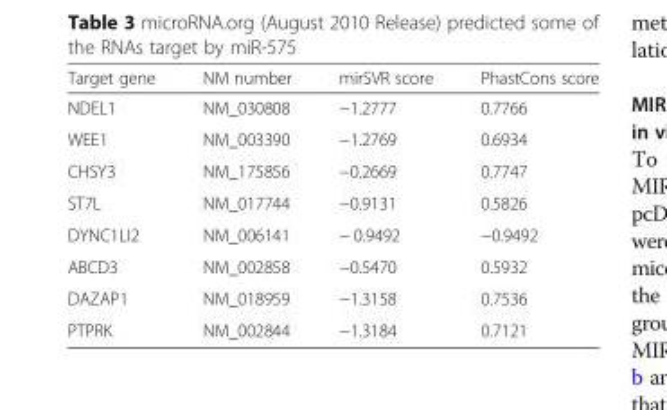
<table><thead><tr><td>Target gene</td><td>NM number</td><td>mirSVR score</td><td>PhastCons score</td></tr></thead><tbody><tr><td>NDEL1</td><td>NM_030808</td><td>−1.2777</td><td>0.7766</td></tr><tr><td>WEE1</td><td>NM_003390</td><td>−1.2769</td><td>0.6934</td></tr><tr><td>CHSY3</td><td>NM_175856</td><td>−0.2669</td><td>0.7747</td></tr><tr><td>ST7L</td><td>NM_017744</td><td>−0.9131</td><td>0.5826</td></tr><tr><td>DYNC1LI2</td><td>NM_006141</td><td>− 0.9492</td><td>−0.9492</td></tr><tr><td>ABCD3</td><td>NM_002858</td><td>−0.5470</td><td>0.5932</td></tr><tr><td>DAZAP1</td><td>NM_018959</td><td>−1.3158</td><td>0.7536</td></tr><tr><td>PTPRK</td><td>NM_002844</td><td>−1.3184</td><td>0.7121</td></tr></tbody></table>